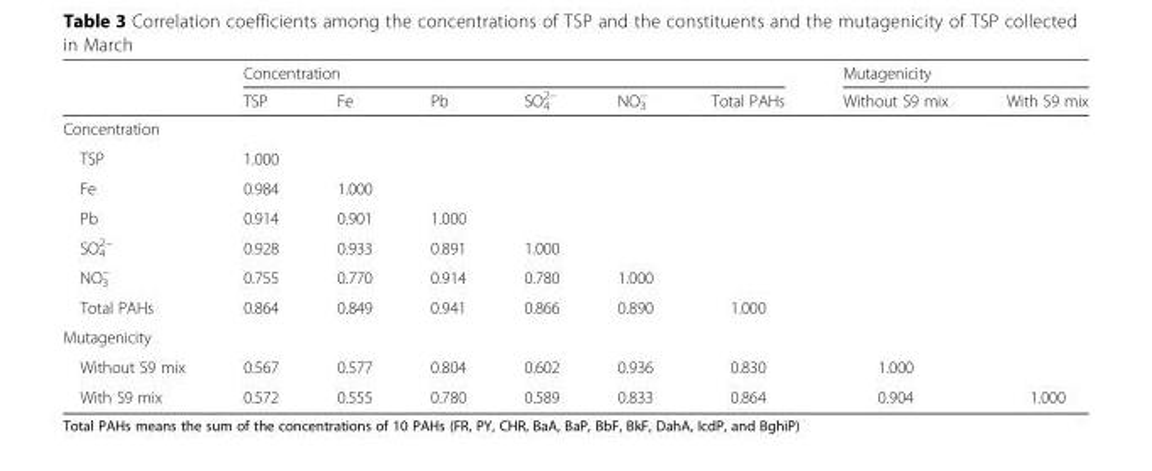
<table><thead><tr><td rowspan="2"></td><td colspan="6">Concentration</td><td colspan="2">Mutagenicity</td></tr><tr><td>TSP</td><td>Fe</td><td>Pb</td><td>SO<sub>4</sub> <sup>2−</sup></td><td>NO<sub>3</sub> <sup>−</sup></td><td>Total PAHs</td><td>Without S9 mix</td><td>With S9 mix</td></tr></thead><tbody><tr><td colspan="9">Concentration</td></tr><tr><td>TSP</td><td>1.000</td><td></td><td></td><td></td><td></td><td></td><td></td><td></td></tr><tr><td>Fe</td><td>0.984</td><td>1.000</td><td></td><td></td><td></td><td></td><td></td><td></td></tr><tr><td>Pb</td><td>0.914</td><td>0.901</td><td>1.000</td><td></td><td></td><td></td><td></td><td></td></tr><tr><td>SO<sub>4</sub> <sup>2−</sup></td><td>0.928</td><td>0.933</td><td>0.891</td><td>1.000</td><td></td><td></td><td></td><td></td></tr><tr><td>NO<sub>3</sub> <sup>−</sup></td><td>0.755</td><td>0.770</td><td>0.914</td><td>0.780</td><td>1.000</td><td></td><td></td><td></td></tr><tr><td>Total PAHs</td><td>0.864</td><td>0.849</td><td>0.941</td><td>0.866</td><td>0.890</td><td>1.000</td><td></td><td></td></tr><tr><td colspan="9">Mutagenicity</td></tr><tr><td>Without S9 mix</td><td>0.567</td><td>0.577</td><td>0.804</td><td>0.602</td><td>0.936</td><td>0.830</td><td>1.000</td><td></td></tr><tr><td>With S9 mix</td><td>0.572</td><td>0.555</td><td>0.780</td><td>0.589</td><td>0.833</td><td>0.864</td><td>0.904</td><td>1.000</td></tr></tbody></table>